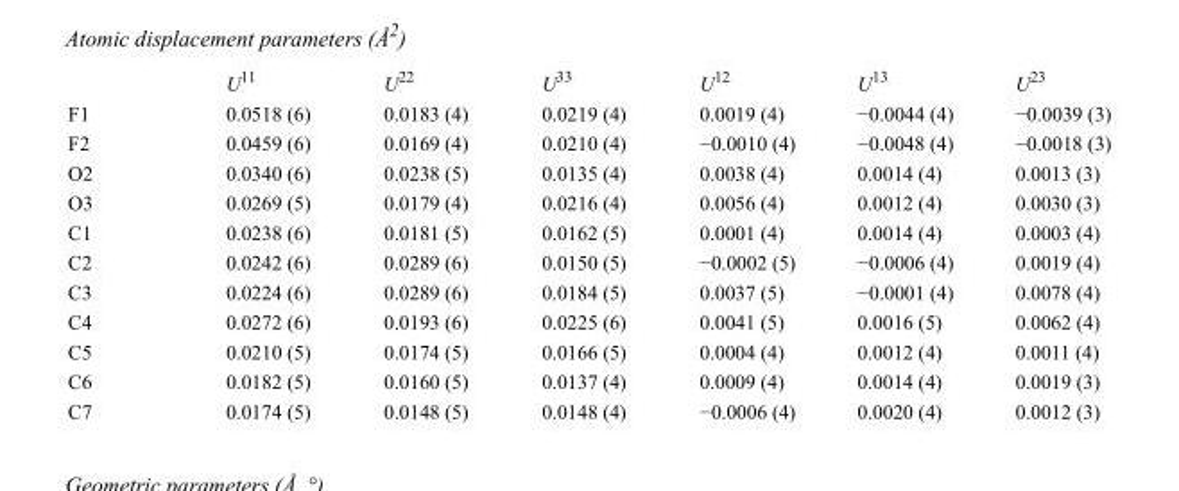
<table><thead><tr><td></td><td>U<sup>11</sup></td><td>U<sup>22</sup></td><td>U<sup>33</sup></td><td>U<sup>12</sup></td><td>U<sup>13</sup></td><td>U<sup>23</sup></td></tr></thead><tbody><tr><td>F1</td><td>0.0518 (6)</td><td>0.0183 (4)</td><td>0.0219 (4)</td><td>0.0019 (4)</td><td>−0.0044 (4)</td><td>−0.0039 (3)</td></tr><tr><td>F2</td><td>0.0459 (6)</td><td>0.0169 (4)</td><td>0.0210 (4)</td><td>−0.0010 (4)</td><td>−0.0048 (4)</td><td>−0.0018 (3)</td></tr><tr><td>O2</td><td>0.0340 (6)</td><td>0.0238 (5)</td><td>0.0135 (4)</td><td>0.0038 (4)</td><td>0.0014 (4)</td><td>0.0013 (3)</td></tr><tr><td>O3</td><td>0.0269 (5)</td><td>0.0179 (4)</td><td>0.0216 (4)</td><td>0.0056 (4)</td><td>0.0012 (4)</td><td>0.0030 (3)</td></tr><tr><td>C1</td><td>0.0238 (6)</td><td>0.0181 (5)</td><td>0.0162 (5)</td><td>0.0001 (4)</td><td>0.0014 (4)</td><td>0.0003 (4)</td></tr><tr><td>C2</td><td>0.0242 (6)</td><td>0.0289 (6)</td><td>0.0150 (5)</td><td>−0.0002 (5)</td><td>−0.0006 (4)</td><td>0.0019 (4)</td></tr><tr><td>C3</td><td>0.0224 (6)</td><td>0.0289 (6)</td><td>0.0184 (5)</td><td>0.0037 (5)</td><td>−0.0001 (4)</td><td>0.0078 (4)</td></tr><tr><td>C4</td><td>0.0272 (6)</td><td>0.0193 (6)</td><td>0.0225 (6)</td><td>0.0041 (5)</td><td>0.0016 (5)</td><td>0.0062 (4)</td></tr><tr><td>C5</td><td>0.0210 (5)</td><td>0.0174 (5)</td><td>0.0166 (5)</td><td>0.0004 (4)</td><td>0.0012 (4)</td><td>0.0011 (4)</td></tr><tr><td>C6</td><td>0.0182 (5)</td><td>0.0160 (5)</td><td>0.0137 (4)</td><td>0.0009 (4)</td><td>0.0014 (4)</td><td>0.0019 (3)</td></tr><tr><td>C7</td><td>0.0174 (5)</td><td>0.0148 (5)</td><td>0.0148 (4)</td><td>−0.0006 (4)</td><td>0.0020 (4)</td><td>0.0012 (3)</td></tr></tbody></table>